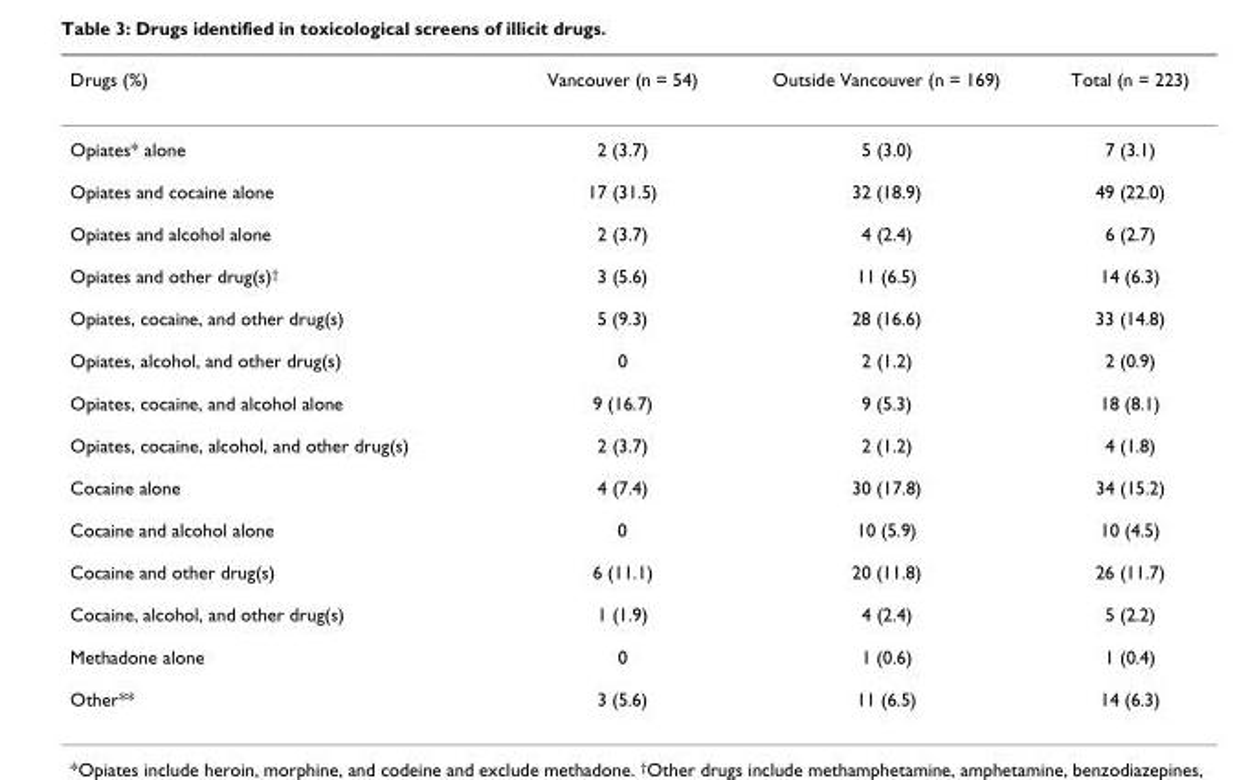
<table><thead><tr><td>Drugs (%)</td><td>Vancouver (n = 54)</td><td>Outside Vancouver (n = 169)</td><td>Total (n = 223)</td></tr></thead><tbody><tr><td>Opiates* alone</td><td>2 (3.7)</td><td>5 (3.0)</td><td>7 (3.1)</td></tr><tr><td>Opiates and cocaine alone</td><td>17 (31.5)</td><td>32 (18.9)</td><td>49 (22.0)</td></tr><tr><td>Opiates and alcohol alone</td><td>2 (3.7)</td><td>4 (2.4)</td><td>6 (2.7)</td></tr><tr><td>Opiates and other drug(s)<sup>†</sup></td><td>3 (5.6)</td><td>11 (6.5)</td><td>14 (6.3)</td></tr><tr><td>Opiates, cocaine, and other drug(s)</td><td>5 (9.3)</td><td>28 (16.6)</td><td>33 (14.8)</td></tr><tr><td>Opiates, alcohol, and other drug(s)</td><td>0</td><td>2 (1.2)</td><td>2 (0.9)</td></tr><tr><td>Opiates, cocaine, and alcohol alone</td><td>9 (16.7)</td><td>9 (5.3)</td><td>18 (8.1)</td></tr><tr><td>Opiates, cocaine, alcohol, and other drug(s)</td><td>2 (3.7)</td><td>2 (1.2)</td><td>4 (1.8)</td></tr><tr><td>Cocaine alone</td><td>4 (7.4)</td><td>30 (17.8)</td><td>34 (15.2)</td></tr><tr><td>Cocaine and alcohol alone</td><td>0</td><td>10 (5.9)</td><td>10 (4.5)</td></tr><tr><td>Cocaine and other drug(s)</td><td>6 (11.1)</td><td>20 (11.8)</td><td>26 (11.7)</td></tr><tr><td>Cocaine, alcohol, and other drug(s)</td><td>1 (1.9)</td><td>4 (2.4)</td><td>5 (2.2)</td></tr><tr><td>Methadone alone</td><td>0</td><td>1 (0.6)</td><td>1 (0.4)</td></tr><tr><td>Other**</td><td>3 (5.6)</td><td>11 (6.5)</td><td>14 (6.3)</td></tr></tbody></table>